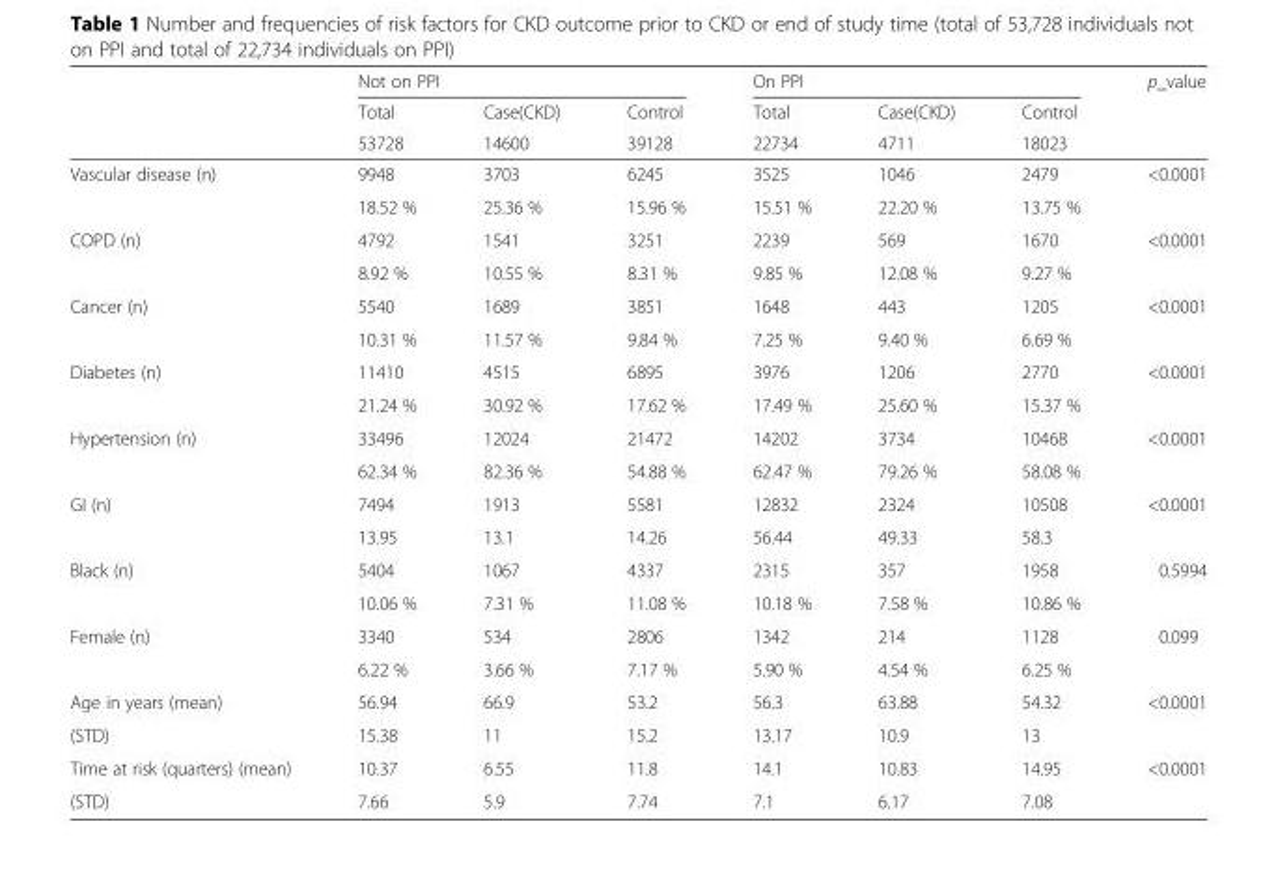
<table><thead><tr><td rowspan="3"></td><td colspan="3">Not on PPI</td><td colspan="3">On PPI</td><td rowspan="3">p_value</td></tr><tr><td rowspan="2">Total 53728</td><td rowspan="2">Case(CKD) 14600</td><td rowspan="2">Control 39128</td><td rowspan="2">Total 22734</td><td rowspan="2">Case(CKD) 4711</td><td rowspan="2">Control 18023</td></tr><tr></tr></thead><tbody><tr><td rowspan="2">Vascular disease (n)</td><td>9948</td><td>3703</td><td>6245</td><td>3525</td><td>1046</td><td>2479</td><td>&lt;0.0001</td></tr><tr><td>18.52 %</td><td>25.36 %</td><td>15.96 %</td><td>15.51 %</td><td>22.20 %</td><td>13.75 %</td><td></td></tr><tr><td rowspan="2">COPD (n)</td><td>4792</td><td>1541</td><td>3251</td><td>2239</td><td>569</td><td>1670</td><td>&lt;0.0001</td></tr><tr><td>8.92 %</td><td>10.55 %</td><td>8.31 %</td><td>9.85 %</td><td>12.08 %</td><td>9.27 %</td><td></td></tr><tr><td rowspan="2">Cancer (n)</td><td>5540</td><td>1689</td><td>3851</td><td>1648</td><td>443</td><td>1205</td><td>&lt;0.0001</td></tr><tr><td>10.31 %</td><td>11.57 %</td><td>9.84 %</td><td>7.25 %</td><td>9.40 %</td><td>6.69 %</td><td></td></tr><tr><td rowspan="2">Diabetes (n)</td><td>11410</td><td>4515</td><td>6895</td><td>3976</td><td>1206</td><td>2770</td><td>&lt;0.0001</td></tr><tr><td>21.24 %</td><td>30.92 %</td><td>17.62 %</td><td>17.49 %</td><td>25.60 %</td><td>15.37 %</td><td></td></tr><tr><td rowspan="2">Hypertension (n)</td><td>33496</td><td>12024</td><td>21472</td><td>14202</td><td>3734</td><td>10468</td><td>&lt;0.0001</td></tr><tr><td>62.34 %</td><td>82.36 %</td><td>54.88 %</td><td>62.47 %</td><td>79.26 %</td><td>58.08 %</td><td></td></tr><tr><td rowspan="2">GI (n)</td><td>7494</td><td>1913</td><td>5581</td><td>12832</td><td>2324</td><td>10508</td><td>&lt;0.0001</td></tr><tr><td>13.95</td><td>13.1</td><td>14.26</td><td>56.44</td><td>49.33</td><td>58.3</td><td></td></tr><tr><td rowspan="2">Black (n)</td><td>5404</td><td>1067</td><td>4337</td><td>2315</td><td>357</td><td>1958</td><td>0.5994</td></tr><tr><td>10.06 %</td><td>7.31 %</td><td>11.08 %</td><td>10.18 %</td><td>7.58 %</td><td>10.86 %</td><td></td></tr><tr><td rowspan="2">Female (n)</td><td>3340</td><td>534</td><td>2806</td><td>1342</td><td>214</td><td>1128</td><td>0.099</td></tr><tr><td>6.22 %</td><td>3.66 %</td><td>7.17 %</td><td>5.90 %</td><td>4.54 %</td><td>6.25 %</td><td></td></tr><tr><td>Age in years (mean)</td><td>56.94</td><td>66.9</td><td>53.2</td><td>56.3</td><td>63.88</td><td>54.32</td><td>&lt;0.0001</td></tr><tr><td>(STD)</td><td>15.38</td><td>11</td><td>15.2</td><td>13.17</td><td>10.9</td><td>13</td><td></td></tr><tr><td>Time at risk (quarters) (mean)</td><td>10.37</td><td>6.55</td><td>11.8</td><td>14.1</td><td>10.83</td><td>14.95</td><td>&lt;0.0001</td></tr><tr><td>(STD)</td><td>7.66</td><td>5.9</td><td>7.74</td><td>7.1</td><td>6.17</td><td>7.08</td><td></td></tr></tbody></table>